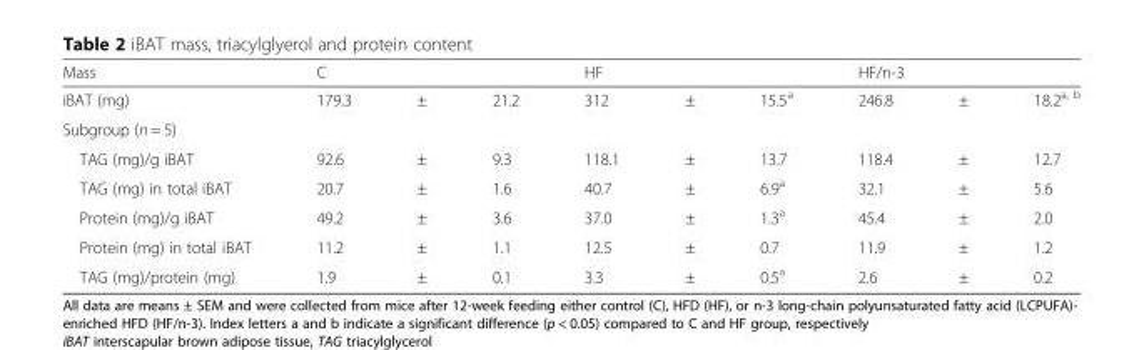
<table><thead><tr><td rowspan="2">Mass iBAT (mg)</td><td colspan="3">C</td><td colspan="3">HF</td><td colspan="3">HF/n-3</td></tr><tr><td>179.3</td><td>±</td><td>21.2</td><td>312</td><td>±</td><td>15.5<sup>a</sup></td><td>246.8</td><td>±</td><td>18.2<sup>a, b</sup></td></tr></thead><tbody><tr><td colspan="10">Subgroup (n = 5)</td></tr><tr><td>TAG (mg)/g iBAT</td><td>92.6</td><td>±</td><td>9.3</td><td>118.1</td><td>±</td><td>13.7</td><td>118.4</td><td>±</td><td>12.7</td></tr><tr><td>TAG (mg) in total iBAT</td><td>20.7</td><td>±</td><td>1.6</td><td>40.7</td><td>±</td><td>6.9<sup>a</sup></td><td>32.1</td><td>±</td><td>5.6</td></tr><tr><td>Protein (mg)/g iBAT</td><td>49.2</td><td>±</td><td>3.6</td><td>37.0</td><td>±</td><td>1.3<sup>a</sup></td><td>45.4</td><td>±</td><td>2.0</td></tr><tr><td>Protein (mg) in total iBAT</td><td>11.2</td><td>±</td><td>1.1</td><td>12.5</td><td>±</td><td>0.7</td><td>11.9</td><td>±</td><td>1.2</td></tr><tr><td>TAG (mg)/protein (mg)</td><td>1.9</td><td>±</td><td>0.1</td><td>3.3</td><td>±</td><td>0.5<sup>a</sup></td><td>2.6</td><td>±</td><td>0.2</td></tr></tbody></table>